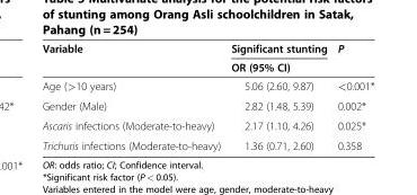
<table><thead><tr><td rowspan="2">Variable</td><td rowspan="2">Significant stunting OR (95% CI)</td><td rowspan="2">P</td></tr><tr></tr></thead><tbody><tr><td>Age (&gt;10 years)</td><td>5.06 (2.60, 9.87)</td><td>&lt;0.001*</td></tr><tr><td>Gender (Male)</td><td>2.82 (1.48, 5.39)</td><td>0.002*</td></tr><tr><td>Ascaris infections (Moderate-to-heavy)</td><td>2.17 (1.10, 4.26)</td><td>0.025*</td></tr><tr><td>Trichuris infections (Moderate-to-heavy)</td><td>1.36 (0.71, 2.60)</td><td>0.358</td></tr></tbody></table>